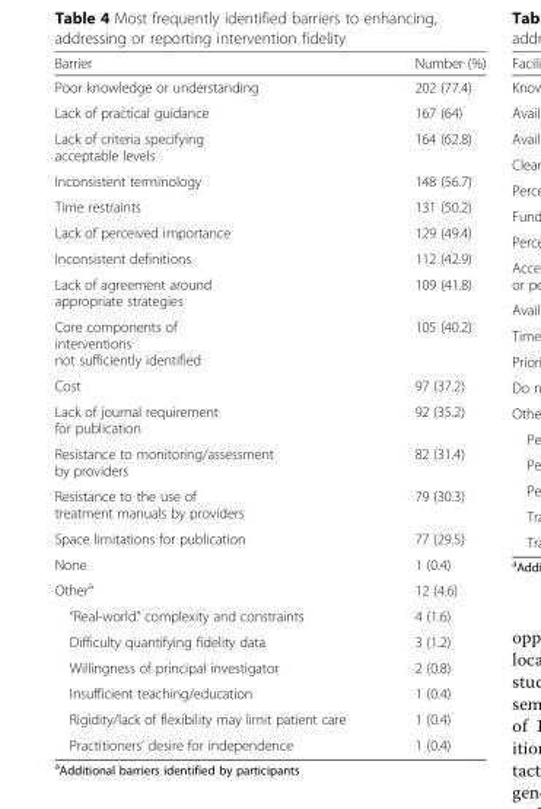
<table><thead><tr><td>Barrier</td><td>Number (%)</td></tr></thead><tbody><tr><td>Poor knowledge or understanding</td><td>202 (77.4)</td></tr><tr><td>Lack of practical guidance</td><td>167 (64)</td></tr><tr><td>Lack of criteria specifying acceptable levels</td><td>164 (62.8)</td></tr><tr><td>Inconsistent terminology</td><td>148 (56.7)</td></tr><tr><td>Time restraints</td><td>131 (50.2)</td></tr><tr><td>Lack of perceived importance</td><td>129 (49.4)</td></tr><tr><td>Inconsistent definitions</td><td>112 (42.9)</td></tr><tr><td>Lack of agreement around appropriate strategies</td><td>109 (41.8)</td></tr><tr><td>Core components of interventions not sufficiently identified</td><td>105 (40.2)</td></tr><tr><td>Cost</td><td>97 (37.2)</td></tr><tr><td>Lack of journal requirement for publication</td><td>92 (35.2)</td></tr><tr><td>Resistance to monitoring/assessment by providers</td><td>82 (31.4)</td></tr><tr><td>Resistance to the use of treatment manuals by providers</td><td>79 (30.3)</td></tr><tr><td>Space limitations for publication</td><td>77 (29.5)</td></tr><tr><td>None</td><td>1 (0.4)</td></tr><tr><td>Other<sup>a</sup></td><td>12 (4.6)</td></tr><tr><td>“Real-world” complexity and constraints</td><td>4 (1.6)</td></tr><tr><td>Difficulty quantifying fidelity data</td><td>3 (1.2)</td></tr><tr><td>Willingness of principal investigator</td><td>2 (0.8)</td></tr><tr><td>Insufficient teaching/education</td><td>1 (0.4)</td></tr><tr><td>Rigidity/lack of flexibility may limit patient care</td><td>1 (0.4)</td></tr><tr><td>Practitioners’ desire for independence</td><td>1 (0.4)</td></tr></tbody></table>